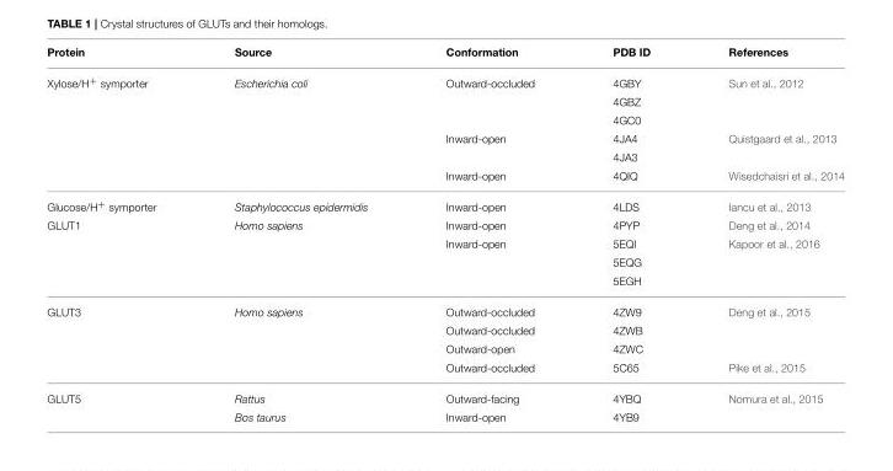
<table><thead><tr><td>Protein</td><td>Source</td><td>Conformation</td><td>PDB ID</td><td>References</td></tr></thead><tbody><tr><td rowspan="6">Xylose/H<sup>+</sup> symporter</td><td>Escherichia coli</td><td>Outward-occluded</td><td>4GBY</td><td>Sun et al., 2012</td></tr><tr><td></td><td></td><td>4GBZ</td><td></td></tr><tr><td></td><td></td><td>4GC0</td><td></td></tr><tr><td></td><td>Inward-open</td><td>4JA4</td><td>Quistgaard et al., 2013</td></tr><tr><td></td><td></td><td>4JA3</td><td></td></tr><tr><td></td><td>Inward-open</td><td>4QIQ</td><td>Wisedchaisri et al., 2014</td></tr><tr><td>Glucose/H<sup>+</sup> symporter</td><td>Staphylococcus epidermidis</td><td>Inward-open</td><td>4LDS</td><td>Iancu et al., 2013</td></tr><tr><td rowspan="4">GLUT1</td><td>Homo sapiens</td><td>Inward-open</td><td>4PYP</td><td>Deng et al., 2014</td></tr><tr><td></td><td>Inward-open</td><td>5EQI</td><td>Kapoor et al., 2016</td></tr><tr><td></td><td></td><td>5EQG</td><td></td></tr><tr><td></td><td></td><td>5EGH</td><td></td></tr><tr><td rowspan="4">GLUT3</td><td>Homo sapiens</td><td>Outward-occluded</td><td>4ZW9</td><td>Deng et al., 2015</td></tr><tr><td></td><td>Outward-occluded</td><td>4ZWB</td><td></td></tr><tr><td></td><td>Outward-open</td><td>4ZWC</td><td></td></tr><tr><td></td><td>Outward-occluded</td><td>5C65</td><td>Pike et al., 2015</td></tr><tr><td rowspan="2">GLUT5</td><td>Rattus</td><td>Outward-facing</td><td>4YBQ</td><td>Nomura et al., 2015</td></tr><tr><td>Bos taurus</td><td>Inward-open</td><td>4YB9</td><td></td></tr></tbody></table>